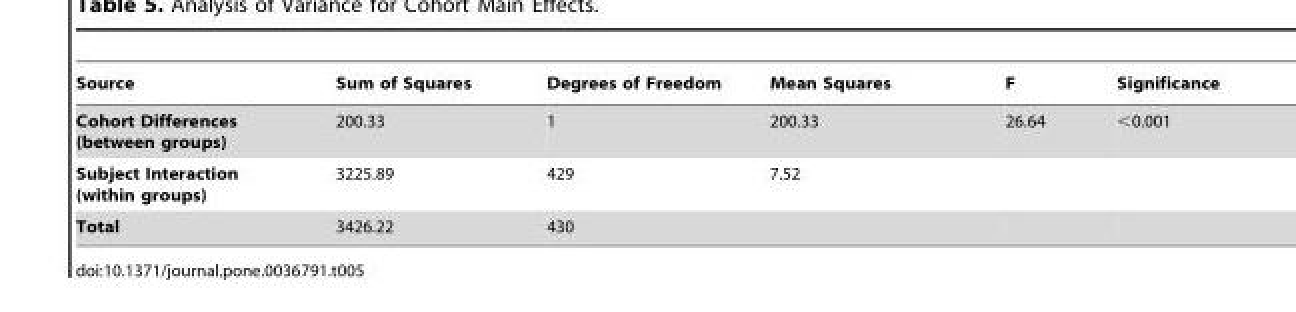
<table><thead><tr><td>Source</td><td>Sum of Squares</td><td>Degrees of Freedom</td><td>Mean Squares</td><td>F</td><td>Significance</td></tr></thead><tbody><tr><td>Cohort Differences (between groups)</td><td>200.33</td><td>1</td><td>200.33</td><td>26.64</td><td>&lt;0.001</td></tr><tr><td>Subject Interaction (within groups)</td><td>3225.89</td><td>429</td><td>7.52</td><td></td><td></td></tr><tr><td>Total</td><td>3426.22</td><td>430</td><td></td><td></td><td></td></tr></tbody></table>